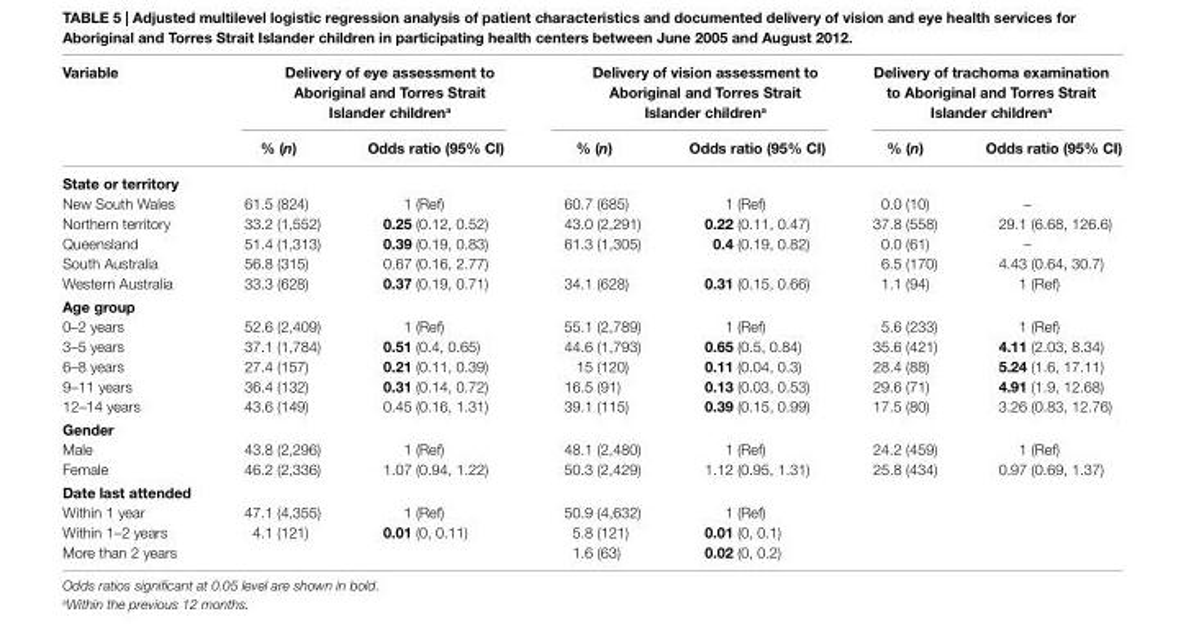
<table><thead><tr><td rowspan="2">Variable</td><td colspan="2">Delivery of eye assessment to aboriginal and Torres strait islander children<sup>a</sup></td><td colspan="2">Delivery of vision assessment to aboriginal and Torres strait islander children<sup>a</sup></td><td colspan="2">Delivery of trachoma examination to aboriginal and Torres strait islander children<sup>a</sup></td></tr><tr><td>% (n)</td><td>Odds ratio (95% ci)</td><td>% (n)</td><td>Odds ratio (95% ci)</td><td>% (n)</td><td>Odds ratio (95% ci)</td></tr></thead><tbody><tr><td colspan="7">state or territory</td></tr><tr><td>New South Wales</td><td>61.5 (824)</td><td>1 (Ref)</td><td>60.7 (685)</td><td>1 (Ref)</td><td>0.0 (10)</td><td>–</td></tr><tr><td>Northern territory</td><td>33.2 (1,552)</td><td>0.25 (0.12, 0.52)</td><td>43.0 (2,291)</td><td>0.22 (0.11, 0.47)</td><td>37.8 (558)</td><td>29.1 (6.68, 126.6)</td></tr><tr><td>Queensland</td><td>51.4 (1,313)</td><td>0.39 (0.19, 0.83)</td><td>61.3 (1,305)</td><td>0.4 (0.19, 0.82)</td><td>0.0 (61)</td><td>–</td></tr><tr><td>South Australia</td><td>56.8 (315)</td><td>0.67 (0.16, 2.77)</td><td></td><td></td><td>6.5 (170)</td><td>4.43 (0.64, 30.7)</td></tr><tr><td>Western Australia</td><td>33.3 (628)</td><td>0.37 (0.19, 0.71)</td><td>34.1 (628)</td><td>0.31 (0.15, 0.66)</td><td>1.1 (94)</td><td>1 (Ref)</td></tr><tr><td colspan="7">age group</td></tr><tr><td>0–2 years</td><td>52.6 (2,409)</td><td>1 (Ref)</td><td>55.1 (2,789)</td><td>1 (Ref)</td><td>5.6 (233)</td><td>1 (Ref)</td></tr><tr><td>3–5 years</td><td>37.1 (1,784)</td><td>0.51 (0.4, 0.65)</td><td>44.6 (1,793)</td><td>0.65 (0.5, 0.84)</td><td>35.6 (421)</td><td>4.11 (2.03, 8.34)</td></tr><tr><td>6–8 years</td><td>27.4 (157)</td><td>0.21 (0.11, 0.39)</td><td>15 (120)</td><td>0.11 (0.04, 0.3)</td><td>28.4 (88)</td><td>5.24 (1.6, 17.11)</td></tr><tr><td>9–11 years</td><td>36.4 (132)</td><td>0.31 (0.14, 0.72)</td><td>16.5 (91)</td><td>0.13 (0.03, 0.53)</td><td>29.6 (71)</td><td>4.91 (1.9, 12.68)</td></tr><tr><td>12–14 years</td><td>43.6 (149)</td><td>0.45 (0.16, 1.31)</td><td>39.1 (115)</td><td>0.39 (0.15, 0.99)</td><td>17.5 (80)</td><td>3.26 (0.83, 12.76)</td></tr><tr><td colspan="7">gender</td></tr><tr><td>Male</td><td>43.8 (2,296)</td><td>1 (Ref)</td><td>48.1 (2,480)</td><td>1 (Ref)</td><td>24.2 (459)</td><td>1 (Ref)</td></tr><tr><td>Female</td><td>46.2 (2,336)</td><td>1.07 (0.94, 1.22)</td><td>50.3 (2,429)</td><td>1.12 (0.95, 1.31)</td><td>25.8 (434)</td><td>0.97 (0.69, 1.37)</td></tr><tr><td colspan="7">Date last attended</td></tr><tr><td>Within 1 year</td><td>47.1 (4,355)</td><td>1 (Ref)</td><td>50.9 (4,632)</td><td>1 (Ref)</td><td></td><td></td></tr><tr><td>Within 1–2 years</td><td>4.1 (121)</td><td>0.01 (0, 0.11)</td><td>5.8 (121)</td><td>0.01 (0, 0.1)</td><td></td><td></td></tr><tr><td>More than 2 years</td><td></td><td></td><td>1.6 (63)</td><td>0.02 (0, 0.2)</td><td></td><td></td></tr></tbody></table>